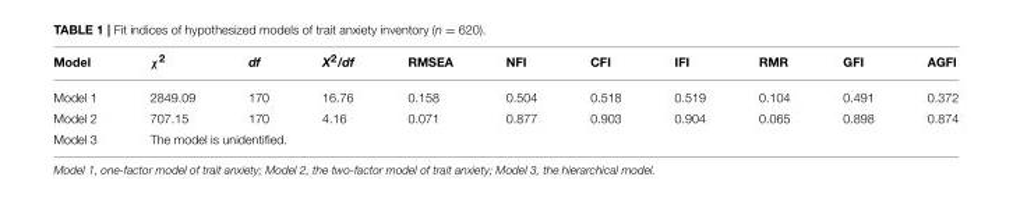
<table><thead><tr><td>Model</td><td>χ<sup>2</sup></td><td>df</td><td>X2/df</td><td>RMSEA</td><td>NFI</td><td>CFI</td><td>IFI</td><td>RMR</td><td>GFI</td><td>AGFI</td></tr></thead><tbody><tr><td>Model 1</td><td>2849.09</td><td>170</td><td>16.76</td><td>0.158</td><td>0.504</td><td>0.518</td><td>0.519</td><td>0.104</td><td>0.491</td><td>0.372</td></tr><tr><td>Model 2</td><td>707.15</td><td>170</td><td>4.16</td><td>0.071</td><td>0.877</td><td>0.903</td><td>0.904</td><td>0.065</td><td>0.898</td><td>0.874</td></tr><tr><td>Model 3</td><td colspan="10">The model is unidentified.</td></tr></tbody></table>